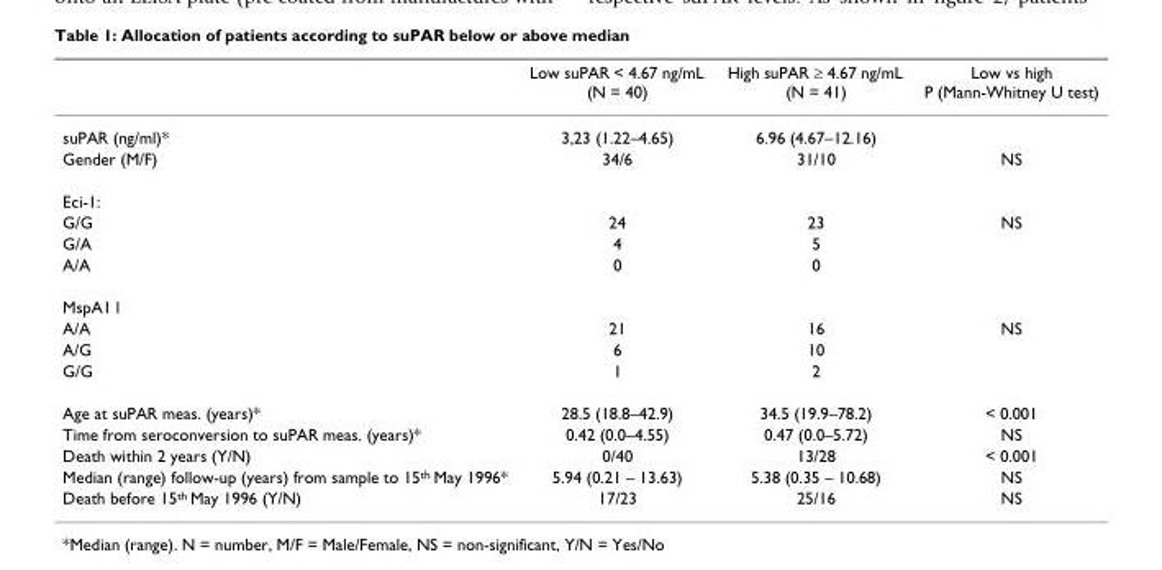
<table><thead><tr><td></td><td>Low suPAR &lt; 4.67 ng/mL (N = 40)</td><td>High suPAR ≥ 4.67 ng/mL (N = 41)</td><td>Low vs high P (Mann-Whitney U test)</td></tr></thead><tbody><tr><td>suPAR (ng/ml)*</td><td>3,23 (1.22–4.65)</td><td>6.96 (4.67–12.16)</td><td></td></tr><tr><td>Gender (M/F)</td><td>34/6</td><td>31/10</td><td>NS</td></tr><tr><td colspan="4">Eci-1:</td></tr><tr><td>G/G</td><td>24</td><td>23</td><td>NS</td></tr><tr><td>G/A</td><td>4</td><td>5</td><td></td></tr><tr><td>A/A</td><td>0</td><td>0</td><td></td></tr><tr><td colspan="4">MspA1 l</td></tr><tr><td>A/A</td><td>21</td><td>16</td><td>NS</td></tr><tr><td>A/G</td><td>6</td><td>10</td><td></td></tr><tr><td>G/G</td><td>1</td><td>2</td><td></td></tr><tr><td>Age at suPAR meas. (years)*</td><td>28.5 (18.8–42.9)</td><td>34.5 (19.9–78.2)</td><td>&lt; 0.001</td></tr><tr><td>Time from seroconversion to suPAR meas. (years)*</td><td>0.42 (0.0–4.55)</td><td>0.47 (0.0–5.72)</td><td>NS</td></tr><tr><td>Death within 2 years (Y/N)</td><td>0/40</td><td>13/28</td><td>&lt; 0.001</td></tr><tr><td>Median (range) follow-up (years) from sample to 15<sup>th</sup> May 1996*</td><td>5.94 (0.21 – 13.63)</td><td>5.38 (0.35 – 10.68)</td><td>NS</td></tr><tr><td>Death before 15<sup>th</sup> May 1996 (Y/N)</td><td>17/23</td><td>25/16</td><td>NS</td></tr></tbody></table>